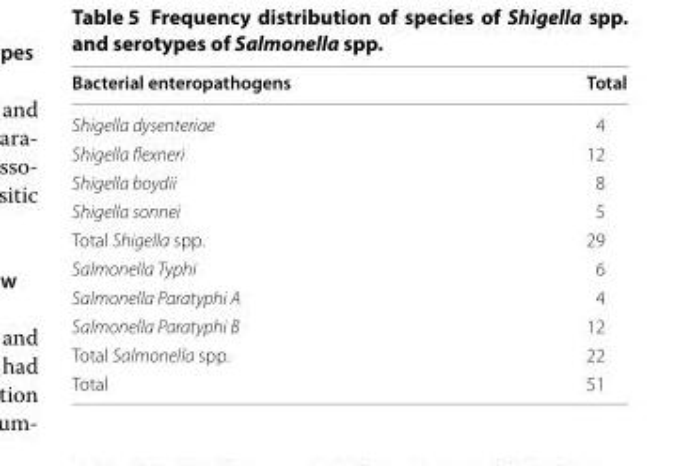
<table><thead><tr><td>Bacterial enteropathogens</td><td>Total</td></tr></thead><tbody><tr><td>Shigella dysenteriae</td><td>4</td></tr><tr><td>Shigella flexneri</td><td>12</td></tr><tr><td>Shigella boydii</td><td>8</td></tr><tr><td>Shigella sonnei</td><td>5</td></tr><tr><td>Total Shigella spp.</td><td>29</td></tr><tr><td>Salmonella Typhi</td><td>6</td></tr><tr><td>Salmonella Paratyphi A</td><td>4</td></tr><tr><td>Salmonella Paratyphi B</td><td>12</td></tr><tr><td>Total Salmonella spp.</td><td>22</td></tr><tr><td>Total</td><td>51</td></tr></tbody></table>